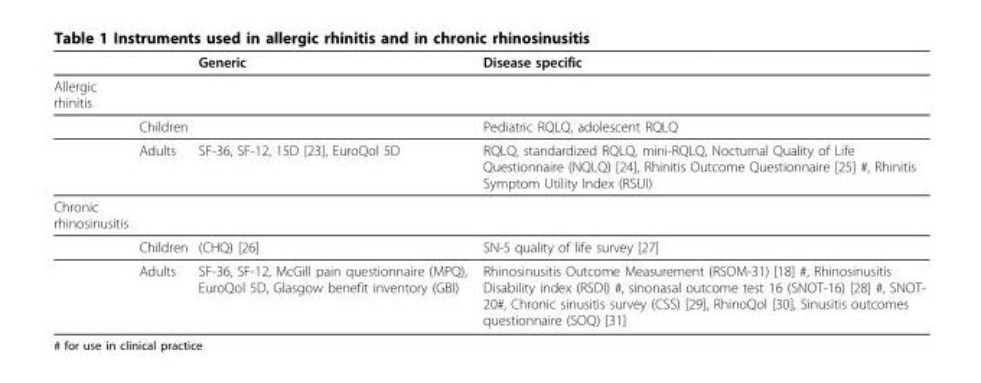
<table><thead><tr><td></td><td></td><td>Generic</td><td>Disease specific</td></tr></thead><tbody><tr><td colspan="4">Allergic rhinitis</td></tr><tr><td></td><td>Children</td><td></td><td>Pediatric RQLQ, adolescent RQLQ</td></tr><tr><td></td><td>Adults</td><td>SF-36, SF-12, 15D [23], EuroQol 5D</td><td>RQLQ, standardized RQLQ, mini-RQLQ, Nocturnal Quality of Life Questionnaire (NQLQ) [24], Rhinitis Outcome Questionnaire [25] #, Rhinitis Symptom Utility Index (RSUI)</td></tr><tr><td colspan="4">Chronic rhinosinusitis</td></tr><tr><td></td><td>Children</td><td>(CHQ) [26]</td><td>SN-5 quality of life survey [27]</td></tr><tr><td></td><td>Adults</td><td>SF-36, SF-12, McGill pain questionnaire (MPQ), EuroQol 5D, Glasgow benefit inventory (GBI)</td><td>Rhinosinusitis Outcome Measurement (RSOM-31) [18] #, Rhinosinusitis Disability index (RSDI) #, sinonasal outcome test 16 (SNOT-16) [28] #, SNOT- 20#, Chronic sinusitis survey (CSS) [29], RhinoQol [30], Sinusitis outcomes questionnaire (SOQ) [31]</td></tr></tbody></table>